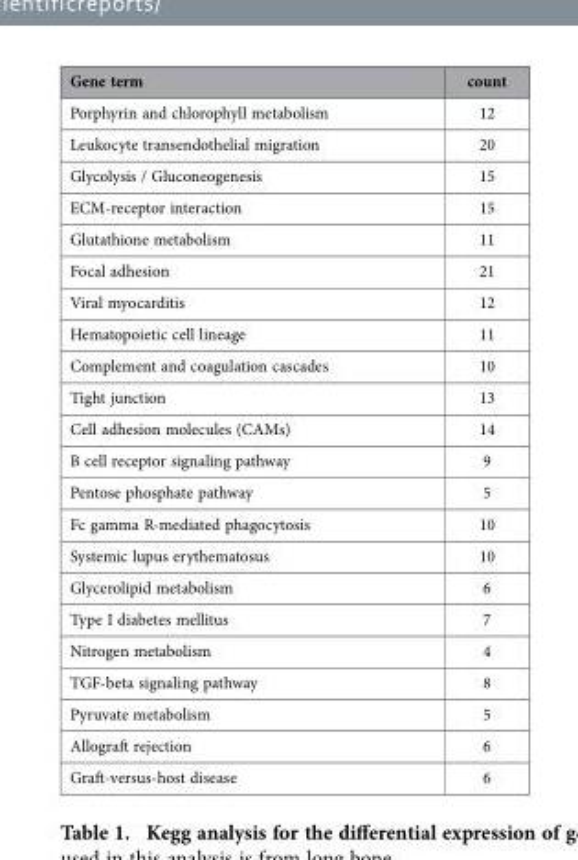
<table><thead><tr><td>Gene term</td><td>count</td></tr></thead><tbody><tr><td>Porphyrin and chlorophyll metabolism</td><td>12</td></tr><tr><td>Leukocyte transendothelial migration</td><td>20</td></tr><tr><td>Glycolysis / Gluconeogenesis</td><td>15</td></tr><tr><td>ECM-receptor interaction</td><td>15</td></tr><tr><td>Glutathione metabolism</td><td>11</td></tr><tr><td>Focal adhesion</td><td>21</td></tr><tr><td>Viral myocarditis</td><td>12</td></tr><tr><td>Hematopoietic cell lineage</td><td>11</td></tr><tr><td>Complement and coagulation cascades</td><td>10</td></tr><tr><td>Tight junction</td><td>13</td></tr><tr><td>Cell adhesion molecules (CAMs)</td><td>14</td></tr><tr><td>B cell receptor signaling pathway</td><td>9</td></tr><tr><td>Pentose phosphate pathway</td><td>5</td></tr><tr><td>Fc gamma R-mediated phagocytosis</td><td>10</td></tr><tr><td>Systemic lupus erythematosus</td><td>10</td></tr><tr><td>Glycerolipid metabolism</td><td>6</td></tr><tr><td>Type I diabetes mellitus</td><td>7</td></tr><tr><td>Nitrogen metabolism</td><td>4</td></tr><tr><td>TGF-beta signaling pathway</td><td>8</td></tr><tr><td>Pyruvate metabolism</td><td>5</td></tr><tr><td>Allograft rejection</td><td>6</td></tr><tr><td>Graft-versus-host disease</td><td>6</td></tr></tbody></table>